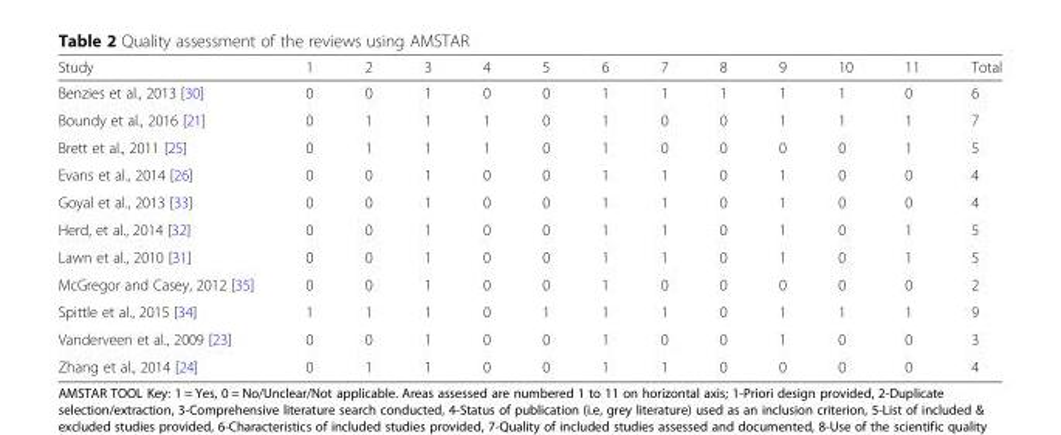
<table><thead><tr><td>Study</td><td>1</td><td>2</td><td>3</td><td>4</td><td>5</td><td>6</td><td>7</td><td>8</td><td>9</td><td>10</td><td>11</td><td>Total</td></tr></thead><tbody><tr><td>Benzies et al., 2013 [30]</td><td>0</td><td>0</td><td>1</td><td>0</td><td>0</td><td>1</td><td>1</td><td>1</td><td>1</td><td>1</td><td>0</td><td>6</td></tr><tr><td>Boundy et al., 2016 [21]</td><td>0</td><td>1</td><td>1</td><td>1</td><td>0</td><td>1</td><td>0</td><td>0</td><td>1</td><td>1</td><td>1</td><td>7</td></tr><tr><td>Brett et al., 2011 [25]</td><td>0</td><td>1</td><td>1</td><td>1</td><td>0</td><td>1</td><td>0</td><td>0</td><td>0</td><td>0</td><td>1</td><td>5</td></tr><tr><td>Evans et al., 2014 [26]</td><td>0</td><td>0</td><td>1</td><td>0</td><td>0</td><td>1</td><td>1</td><td>0</td><td>1</td><td>0</td><td>0</td><td>4</td></tr><tr><td>Goyal et al., 2013 [33]</td><td>0</td><td>0</td><td>1</td><td>0</td><td>0</td><td>1</td><td>1</td><td>0</td><td>1</td><td>0</td><td>0</td><td>4</td></tr><tr><td>Herd, et al., 2014 [32]</td><td>0</td><td>0</td><td>1</td><td>0</td><td>0</td><td>1</td><td>1</td><td>0</td><td>1</td><td>0</td><td>1</td><td>5</td></tr><tr><td>Lawn et al., 2010 [31]</td><td>0</td><td>0</td><td>1</td><td>0</td><td>0</td><td>1</td><td>1</td><td>0</td><td>1</td><td>0</td><td>1</td><td>5</td></tr><tr><td>McGregor and Casey, 2012 [35]</td><td>0</td><td>0</td><td>1</td><td>0</td><td>0</td><td>1</td><td>0</td><td>0</td><td>0</td><td>0</td><td>0</td><td>2</td></tr><tr><td>Spittle et al., 2015 [34]</td><td>1</td><td>1</td><td>1</td><td>0</td><td>1</td><td>1</td><td>1</td><td>0</td><td>1</td><td>1</td><td>1</td><td>9</td></tr><tr><td>Vanderveen et al., 2009 [23]</td><td>0</td><td>0</td><td>1</td><td>0</td><td>0</td><td>1</td><td>0</td><td>0</td><td>1</td><td>0</td><td>0</td><td>3</td></tr><tr><td>Zhang et al., 2014 [24]</td><td>0</td><td>1</td><td>1</td><td>0</td><td>0</td><td>1</td><td>1</td><td>0</td><td>0</td><td>0</td><td>0</td><td>4</td></tr></tbody></table>